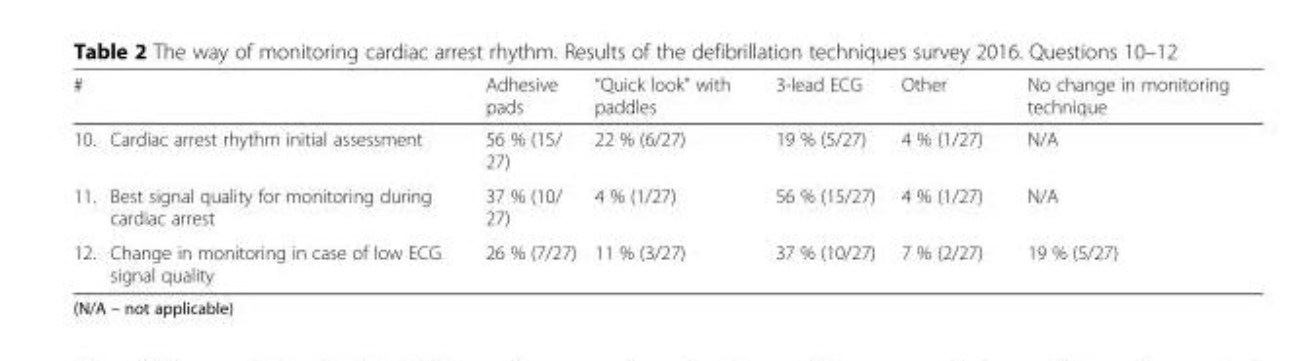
<table><thead><tr><td>#</td><td></td><td>Adhesive pads</td><td>“Quick look” with paddles</td><td>3-lead ECG</td><td>Other</td><td>No change in monitoring technique</td></tr></thead><tbody><tr><td>10.</td><td>Cardiac arrest rhythm initial assessment</td><td>56 % (15/ 27)</td><td>22 % (6/27)</td><td>19 % (5/27)</td><td>4 % (1/27)</td><td>N/A</td></tr><tr><td>11.</td><td>Best signal quality for monitoring during cardiac arrest</td><td>37 % (10/ 27)</td><td>4 % (1/27)</td><td>56 % (15/27)</td><td>4 % (1/27)</td><td>N/A</td></tr><tr><td>12.</td><td>Change in monitoring in case of low ECG signal quality</td><td>26 % (7/27)</td><td>11 % (3/27)</td><td>37 % (10/27)</td><td>7 % (2/27)</td><td>19 % (5/27)</td></tr></tbody></table>